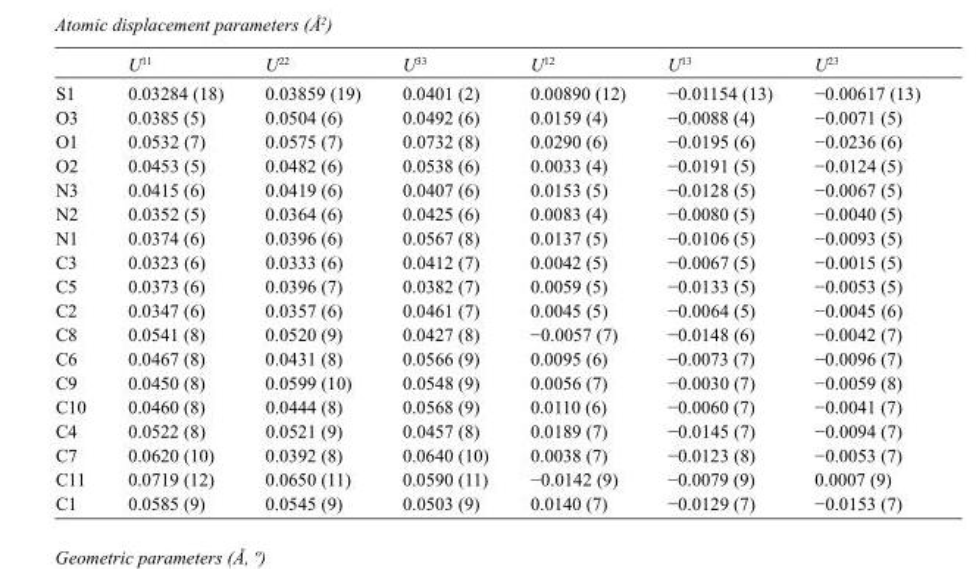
<table><thead><tr><td></td><td>U<sup>11</sup></td><td>U<sup>22</sup></td><td>U<sup>33</sup></td><td>U<sup>12</sup></td><td>U<sup>13</sup></td><td>U<sup>23</sup></td></tr></thead><tbody><tr><td>S1</td><td>0.03284 (18)</td><td>0.03859 (19)</td><td>0.0401 (2)</td><td>0.00890 (12)</td><td>−0.01154 (13)</td><td>−0.00617 (13)</td></tr><tr><td>O3</td><td>0.0385 (5)</td><td>0.0504 (6)</td><td>0.0492 (6)</td><td>0.0159 (4)</td><td>−0.0088 (4)</td><td>−0.0071 (5)</td></tr><tr><td>O1</td><td>0.0532 (7)</td><td>0.0575 (7)</td><td>0.0732 (8)</td><td>0.0290 (6)</td><td>−0.0195 (6)</td><td>−0.0236 (6)</td></tr><tr><td>O2</td><td>0.0453 (5)</td><td>0.0482 (6)</td><td>0.0538 (6)</td><td>0.0033 (4)</td><td>−0.0191 (5)</td><td>−0.0124 (5)</td></tr><tr><td>N3</td><td>0.0415 (6)</td><td>0.0419 (6)</td><td>0.0407 (6)</td><td>0.0153 (5)</td><td>−0.0128 (5)</td><td>−0.0067 (5)</td></tr><tr><td>N2</td><td>0.0352 (5)</td><td>0.0364 (6)</td><td>0.0425 (6)</td><td>0.0083 (4)</td><td>−0.0080 (5)</td><td>−0.0040 (5)</td></tr><tr><td>N1</td><td>0.0374 (6)</td><td>0.0396 (6)</td><td>0.0567 (8)</td><td>0.0137 (5)</td><td>−0.0106 (5)</td><td>−0.0093 (5)</td></tr><tr><td>C3</td><td>0.0323 (6)</td><td>0.0333 (6)</td><td>0.0412 (7)</td><td>0.0042 (5)</td><td>−0.0067 (5)</td><td>−0.0015 (5)</td></tr><tr><td>C5</td><td>0.0373 (6)</td><td>0.0396 (7)</td><td>0.0382 (7)</td><td>0.0059 (5)</td><td>−0.0133 (5)</td><td>−0.0053 (5)</td></tr><tr><td>C2</td><td>0.0347 (6)</td><td>0.0357 (6)</td><td>0.0461 (7)</td><td>0.0045 (5)</td><td>−0.0064 (5)</td><td>−0.0045 (6)</td></tr><tr><td>C8</td><td>0.0541 (8)</td><td>0.0520 (9)</td><td>0.0427 (8)</td><td>−0.0057 (7)</td><td>−0.0148 (6)</td><td>−0.0042 (7)</td></tr><tr><td>C6</td><td>0.0467 (8)</td><td>0.0431 (8)</td><td>0.0566 (9)</td><td>0.0095 (6)</td><td>−0.0073 (7)</td><td>−0.0096 (7)</td></tr><tr><td>C9</td><td>0.0450 (8)</td><td>0.0599 (10)</td><td>0.0548 (9)</td><td>0.0056 (7)</td><td>−0.0030 (7)</td><td>−0.0059 (8)</td></tr><tr><td>C10</td><td>0.0460 (8)</td><td>0.0444 (8)</td><td>0.0568 (9)</td><td>0.0110 (6)</td><td>−0.0060 (7)</td><td>−0.0041 (7)</td></tr><tr><td>C4</td><td>0.0522 (8)</td><td>0.0521 (9)</td><td>0.0457 (8)</td><td>0.0189 (7)</td><td>−0.0145 (7)</td><td>−0.0094 (7)</td></tr><tr><td>C7</td><td>0.0620 (10)</td><td>0.0392 (8)</td><td>0.0640 (10)</td><td>0.0038 (7)</td><td>−0.0123 (8)</td><td>−0.0053 (7)</td></tr><tr><td>C11</td><td>0.0719 (12)</td><td>0.0650 (11)</td><td>0.0590 (11)</td><td>−0.0142 (9)</td><td>−0.0079 (9)</td><td>0.0007 (9)</td></tr><tr><td>C1</td><td>0.0585 (9)</td><td>0.0545 (9)</td><td>0.0503 (9)</td><td>0.0140 (7)</td><td>−0.0129 (7)</td><td>−0.0153 (7)</td></tr></tbody></table>